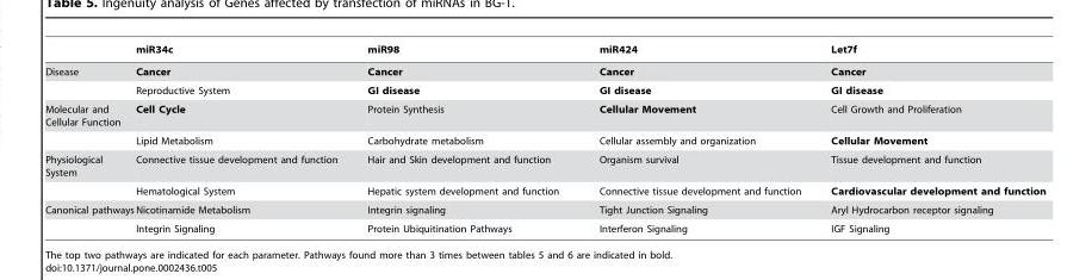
<table><thead><tr><td></td><td>miR34c</td><td>miR98</td><td>miR424</td><td>Let7f</td></tr></thead><tbody><tr><td rowspan="2">Disease</td><td>Cancer</td><td>Cancer</td><td>Cancer</td><td>Cancer</td></tr><tr><td>Reproductive System</td><td>GI disease</td><td>GI disease</td><td>GI disease</td></tr><tr><td rowspan="2">Molecular and Cellular Function</td><td>Cell Cycle</td><td>Protein Synthesis</td><td>Cellular Movement</td><td>Cell Growth and Proliferation</td></tr><tr><td>Lipid Metabolism</td><td>Carbohydrate metabolism</td><td>Cellular assembly and organization</td><td>Cellular Movement</td></tr><tr><td rowspan="2">Physiological System</td><td>Connective tissue development and function</td><td>Hair and Skin development and function</td><td>Organism survival</td><td>Tissue development and function</td></tr><tr><td>Hematological System</td><td>Hepatic system development and function</td><td>Connective tissue development and function</td><td>Cardiovascular development and function</td></tr><tr><td rowspan="2">Canonical pathways</td><td>Nicotinamide Metabolism</td><td>Integrin signaling</td><td>Tight Junction Signaling</td><td>Aryl Hydrocarbon receptor signaling</td></tr><tr><td>Integrin Signaling</td><td>Protein Ubiquitination Pathways</td><td>Interferon Signaling</td><td>IGF Signaling</td></tr></tbody></table>